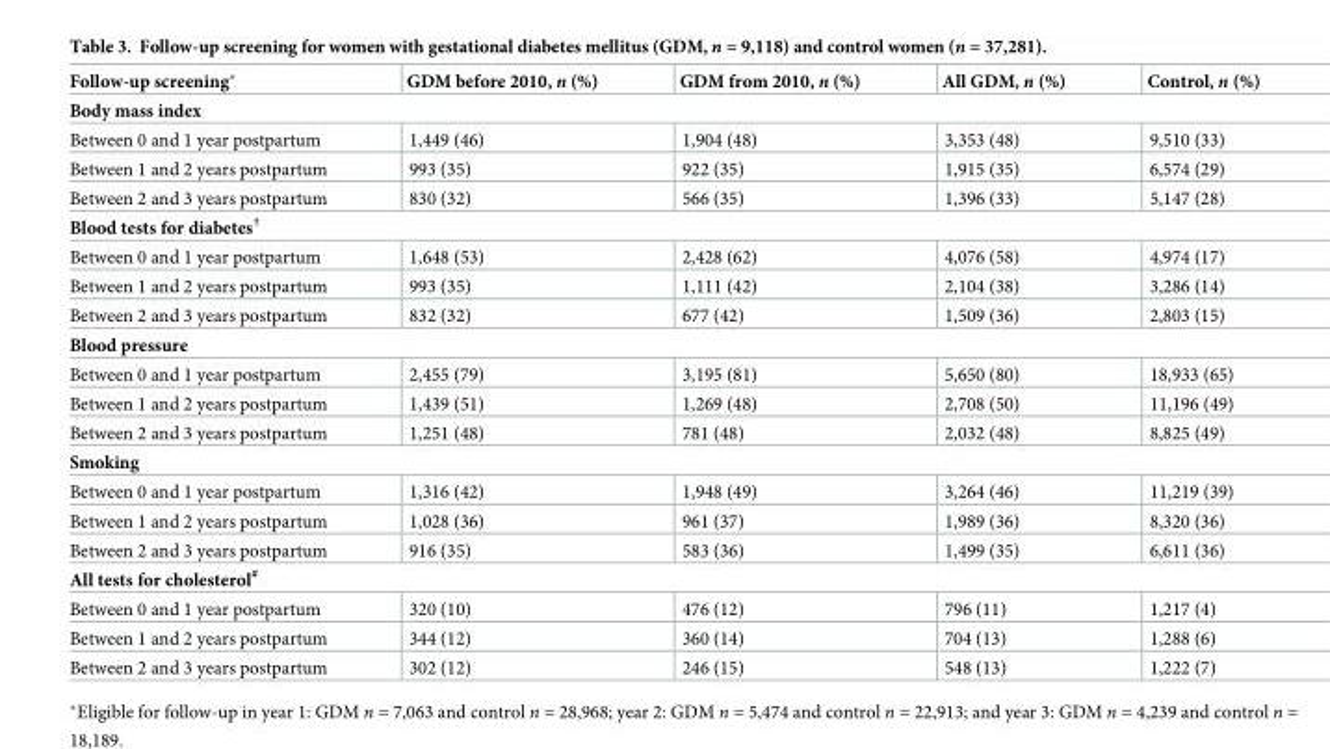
<table><thead><tr><td>Follow-up screening*</td><td>GDM before 2010, n (%)</td><td>GDM from 2010, n (%)</td><td>All GDM, n (%)</td><td>Control, n (%)</td></tr></thead><tbody><tr><td colspan="5">Body mass index</td></tr><tr><td>Between 0 and 1 year postpartum</td><td>1,449 (46)</td><td>1,904 (48)</td><td>3,353 (48)</td><td>9,510 (33)</td></tr><tr><td>Between 1 and 2 years postpartum</td><td>993 (35)</td><td>922 (35)</td><td>1,915 (35)</td><td>6,574 (29)</td></tr><tr><td>Between 2 and 3 years postpartum</td><td>830 (32)</td><td>566 (35)</td><td>1,396 (33)</td><td>5,147 (28)</td></tr><tr><td colspan="5">Blood tests for diabetes<sup>†</sup></td></tr><tr><td>Between 0 and 1 year postpartum</td><td>1,648 (53)</td><td>2,428 (62)</td><td>4,076 (58)</td><td>4,974 (17)</td></tr><tr><td>Between 1 and 2 years postpartum</td><td>993 (35)</td><td>1,111 (42)</td><td>2,104 (38)</td><td>3,286 (14)</td></tr><tr><td>Between 2 and 3 years postpartum</td><td>832 (32)</td><td>677 (42)</td><td>1,509 (36)</td><td>2,803 (15)</td></tr><tr><td colspan="5">Blood pressure</td></tr><tr><td>Between 0 and 1 year postpartum</td><td>2,455 (79)</td><td>3,195 (81)</td><td>5,650 (80)</td><td>18,933 (65)</td></tr><tr><td>Between 1 and 2 years postpartum</td><td>1,439 (51)</td><td>1,269 (48)</td><td>2,708 (50)</td><td>11,196 (49)</td></tr><tr><td>Between 2 and 3 years postpartum</td><td>1,251 (48)</td><td>781 (48)</td><td>2,032 (48)</td><td>8,825 (49)</td></tr><tr><td colspan="5">Smoking</td></tr><tr><td>Between 0 and 1 year postpartum</td><td>1,316 (42)</td><td>1,948 (49)</td><td>3,264 (46)</td><td>11,219 (39)</td></tr><tr><td>Between 1 and 2 years postpartum</td><td>1,028 (36)</td><td>961 (37)</td><td>1,989 (36)</td><td>8,320 (36)</td></tr><tr><td>Between 2 and 3 years postpartum</td><td>916 (35)</td><td>583 (36)</td><td>1,499 (35)</td><td>6,611 (36)</td></tr><tr><td colspan="5">All tests for cholesterol<sup>#</sup></td></tr><tr><td>Between 0 and 1 year postpartum</td><td>320 (10)</td><td>476 (12)</td><td>796 (11)</td><td>1,217 (4)</td></tr><tr><td>Between 1 and 2 years postpartum</td><td>344 (12)</td><td>360 (14)</td><td>704 (13)</td><td>1,288 (6)</td></tr><tr><td>Between 2 and 3 years postpartum</td><td>302 (12)</td><td>246 (15)</td><td>548 (13)</td><td>1,222 (7)</td></tr></tbody></table>